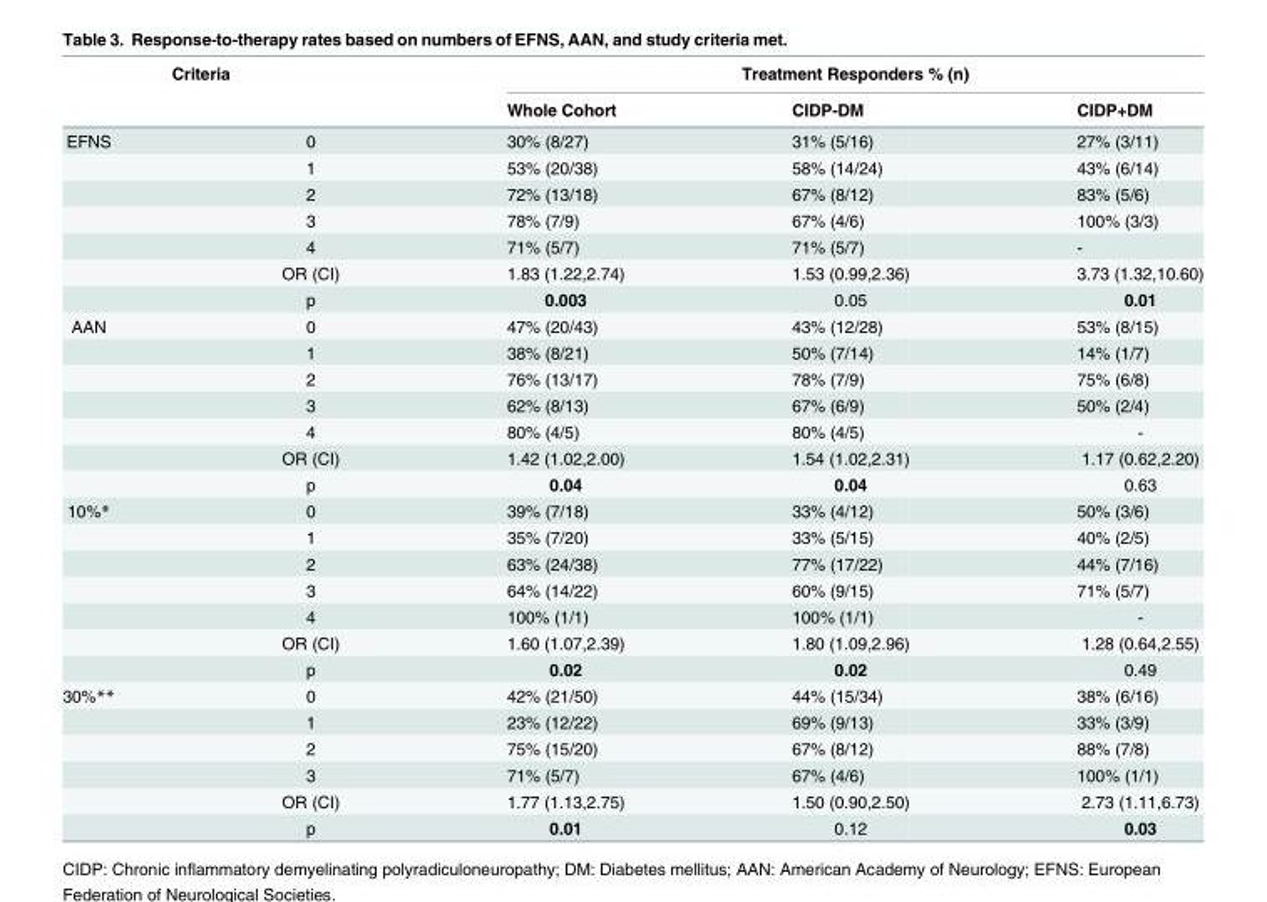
<table><thead><tr><td rowspan="2" colspan="2">Criteria</td><td colspan="3">Treatment Responders % (n)</td></tr><tr><td rowspan="2">Whole Cohort 30% (8/27)</td><td rowspan="2">CIDP-DM 31% (5/16)</td><td rowspan="2">CIDP+DM 27% (3/11)</td></tr><tr><td>EFNS</td><td>0</td></tr></thead><tbody><tr><td></td><td>1</td><td>53% (20/38)</td><td>58% (14/24)</td><td>43% (6/14)</td></tr><tr><td></td><td>2</td><td>72% (13/18)</td><td>67% (8/12)</td><td>83% (5/6)</td></tr><tr><td></td><td>3</td><td>78% (7/9)</td><td>67% (4/6)</td><td>100% (3/3)</td></tr><tr><td></td><td>4</td><td>71% (5/7)</td><td>71% (5/7)</td><td>-</td></tr><tr><td></td><td>OR (CI)</td><td>1.83 (1.22,2.74)</td><td>1.53 (0.99,2.36)</td><td>3.73 (1.32,10.60)</td></tr><tr><td></td><td>p</td><td>0.003</td><td>0.05</td><td>0.01</td></tr><tr><td rowspan="7">AAN</td><td>0</td><td>47% (20/43)</td><td>43% (12/28)</td><td>53% (8/15)</td></tr><tr><td>1</td><td>38% (8/21)</td><td>50% (7/14)</td><td>14% (1/7)</td></tr><tr><td>2</td><td>76% (13/17)</td><td>78% (7/9)</td><td>75% (6/8)</td></tr><tr><td>3</td><td>62% (8/13)</td><td>67% (6/9)</td><td>50% (2/4)</td></tr><tr><td>4</td><td>80% (4/5)</td><td>80% (4/5)</td><td>-</td></tr><tr><td>OR (CI)</td><td>1.42 (1.02,2.00)</td><td>1.54 (1.02,2.31)</td><td>1.17 (0.62,2.20)</td></tr><tr><td>p</td><td>0.04</td><td>0.04</td><td>0.63</td></tr><tr><td rowspan="7">10%*</td><td>0</td><td>39% (7/18)</td><td>33% (4/12)</td><td>50% (3/6)</td></tr><tr><td>1</td><td>35% (7/20)</td><td>33% (5/15)</td><td>40% (2/5)</td></tr><tr><td>2</td><td>63% (24/38)</td><td>77% (17/22)</td><td>44% (7/16)</td></tr><tr><td>3</td><td>64% (14/22)</td><td>60% (9/15)</td><td>71% (5/7)</td></tr><tr><td>4</td><td>100% (1/1)</td><td>100% (1/1)</td><td>-</td></tr><tr><td>OR (CI)</td><td>1.60 (1.07,2.39)</td><td>1.80 (1.09,2.96)</td><td>1.28 (0.64,2.55)</td></tr><tr><td>p</td><td>0.02</td><td>0.02</td><td>0.49</td></tr><tr><td rowspan="6">30%**</td><td>0</td><td>42% (21/50)</td><td>44% (15/34)</td><td>38% (6/16)</td></tr><tr><td>1</td><td>23% (12/22)</td><td>69% (9/13)</td><td>33% (3/9)</td></tr><tr><td>2</td><td>75% (15/20)</td><td>67% (8/12)</td><td>88% (7/8)</td></tr><tr><td>3</td><td>71% (5/7)</td><td>67% (4/6)</td><td>100% (1/1)</td></tr><tr><td>OR (CI)</td><td>1.77 (1.13,2.75)</td><td>1.50 (0.90,2.50)</td><td>2.73 (1.11,6.73)</td></tr><tr><td>p</td><td>0.01</td><td>0.12</td><td>0.03</td></tr></tbody></table>